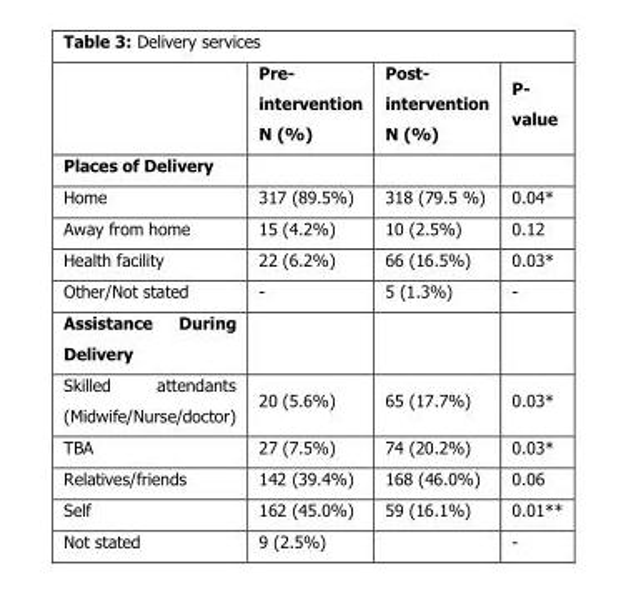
<table><thead><tr><td></td><td>Pre- intervention N (%)</td><td>Post- intervention N (%)</td><td>P- value</td></tr></thead><tbody><tr><td colspan="4">Places of Delivery</td></tr><tr><td>Home</td><td>317 (89.5%)</td><td>318 (79.5 %)</td><td>0.04*</td></tr><tr><td>Away from home</td><td>15 (4.2%)</td><td>10 (2.5%)</td><td>0.12</td></tr><tr><td>Health facility</td><td>22 (6.2%)</td><td>66 (16.5%)</td><td>0.03*</td></tr><tr><td>Other/Not stated</td><td>-</td><td>5 (1.3%)</td><td>-</td></tr><tr><td colspan="4">Assistance During Delivery</td></tr><tr><td>Skilled attendants (Midwife/Nurse/doctor)</td><td>20 (5.6%)</td><td>65 (17.7%)</td><td>0.03*</td></tr><tr><td>TBA</td><td>27 (7.5%)</td><td>74 (20.2%)</td><td>0.03*</td></tr><tr><td>Relatives/friends</td><td>142 (39.4%)</td><td>168 (46.0%)</td><td>0.06</td></tr><tr><td>Self</td><td>162 (45.0%)</td><td>59 (16.1%)</td><td>0.01**</td></tr><tr><td>Not stated</td><td>9 (2.5%)</td><td></td><td>-</td></tr></tbody></table>